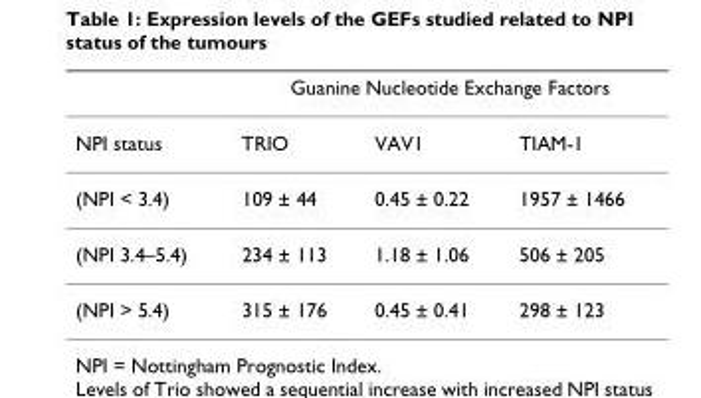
<table><thead><tr><td rowspan="2">NPI status</td><td colspan="3">Guanine Nucleotide Exchange Factors</td></tr><tr><td>TRIO</td><td>VAV1</td><td>TIAM-1</td></tr></thead><tbody><tr><td>(NPI &lt; 3.4)</td><td>109 ± 44</td><td>0.45 ± 0.22</td><td>1957 ± 1466</td></tr><tr><td>(NPI 3.4–5.4)</td><td>234 ± 113</td><td>1.18 ± 1.06</td><td>506 ± 205</td></tr><tr><td>(NPI &gt; 5.4)</td><td>315 ± 176</td><td>0.45 ± 0.41</td><td>298 ± 123</td></tr></tbody></table>